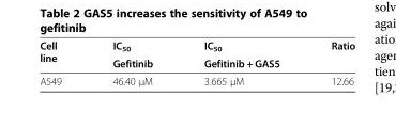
<table><thead><tr><td rowspan="2">Cell line</td><td rowspan="2">IC<sub>50</sub> Gefitinib</td><td rowspan="2">IC<sub>50</sub> Gefitinib + GAS5</td><td rowspan="2">Ratio</td></tr><tr></tr></thead><tbody><tr><td>A549</td><td>46.40 μM</td><td>3.665 μM</td><td>12.66</td></tr></tbody></table>